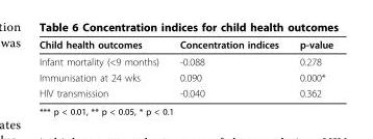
<table><thead><tr><td>Child health outcomes</td><td>Concentration indices</td><td>p-value</td></tr></thead><tbody><tr><td>Infant mortality (&lt;9 months)</td><td>-0.088</td><td>0.278</td></tr><tr><td>Immunisation at 24 wks</td><td>0.090</td><td>0.000*</td></tr><tr><td>HIV transmission</td><td>-0.040</td><td>0.362</td></tr></tbody></table>